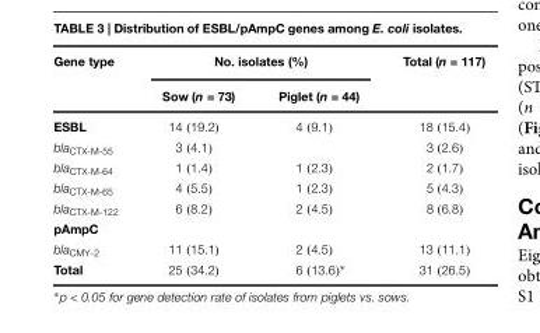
<table><thead><tr><td rowspan="2">Gene type</td><td colspan="2">No. isolates (%)</td><td rowspan="2">Total (n = 117)</td></tr><tr><td>Sow (n = 73)</td><td>Piglet (n = 44)</td></tr></thead><tbody><tr><td>ESBL</td><td>14 (19.2)</td><td>4 (9.1)</td><td>18 (15.4)</td></tr><tr><td>bla<sub>CTX-M-55</sub></td><td>3 (4.1)</td><td></td><td>3 (2.6)</td></tr><tr><td>bla<sub>CTX-M-64</sub></td><td>1 (1.4)</td><td>1 (2.3)</td><td>2 (1.7)</td></tr><tr><td>bla<sub>CTX-M-65</sub></td><td>4 (5.5)</td><td>1 (2.3)</td><td>5 (4.3)</td></tr><tr><td>bla<sub>CTX-M-122</sub></td><td>6 (8.2)</td><td>2 (4.5)</td><td>8 (6.8)</td></tr><tr><td colspan="4">pAmpC</td></tr><tr><td>bla<sub>CMY-2</sub></td><td>11 (15.1)</td><td>2 (4.5)</td><td>13 (11.1)</td></tr><tr><td>Total</td><td>25 (34.2)</td><td>6 (13.6)∗</td><td>31 (26.5)</td></tr></tbody></table>